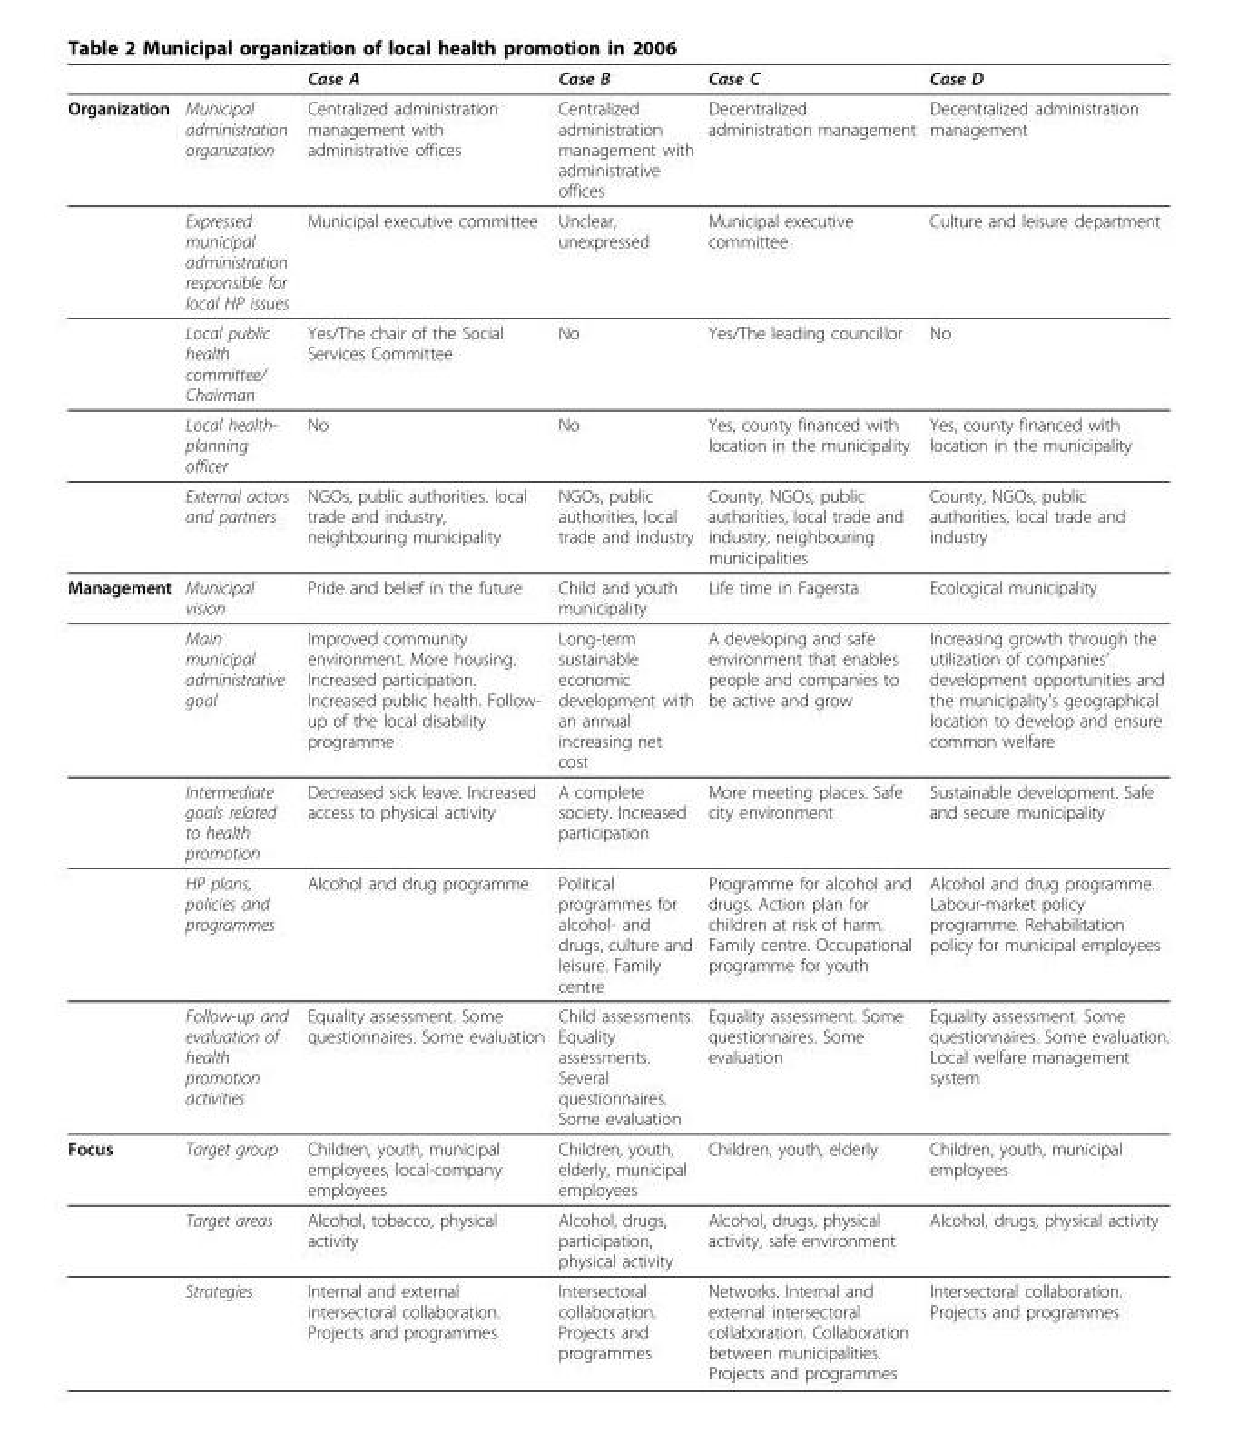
<table><thead><tr><td></td><td></td><td>Case A</td><td>Case B</td><td>Case C</td><td>Case D</td></tr></thead><tbody><tr><td rowspan="5">Organization</td><td>Municipal administration organization</td><td>Centralized administration management with administrative offices</td><td>Centralized administration management with administrative offices</td><td>Decentralized administration management</td><td>Decentralized administration management</td></tr><tr><td>Expressed municipal administration responsible for local HP issues</td><td>Municipal executive committee</td><td>Unclear, unexpressed</td><td>Municipal executive committee</td><td>Culture and leisure department</td></tr><tr><td>Local public health committee/ Chairman</td><td>Yes/The chair of the Social Services Committee</td><td>No</td><td>Yes/The leading councillor</td><td>No</td></tr><tr><td>Local health- planning officer</td><td>No</td><td>No</td><td>Yes, county financed with location in the municipality</td><td>Yes, county financed with location in the municipality</td></tr><tr><td>External actors and partners</td><td>NGOs, public authorities. local trade and industry, neighbouring municipality</td><td>NGOs, public authorities, local trade and industry</td><td>County, NGOs, public authorities, local trade and industry, neighbouring municipalities</td><td>County, NGOs, public authorities, local trade and industry</td></tr><tr><td rowspan="5">Management</td><td>Municipal vision</td><td>Pride and belief in the future</td><td>Child and youth municipality</td><td>Life time in Fagersta</td><td>Ecological municipality</td></tr><tr><td>Main municipal administrative goal</td><td>Improved community environment. More housing. Increased participation. Increased public health. Follow- up of the local disability programme</td><td>Long-term sustainable economic development with an annual increasing net cost</td><td>A developing and safe environment that enables people and companies to be active and grow</td><td>Increasing growth through the utilization of companies’ development opportunities and the municipality’s geographical location to develop and ensure common welfare</td></tr><tr><td>Intermediate goals related to health promotion</td><td>Decreased sick leave. Increased access to physical activity</td><td>A complete society. Increased participation</td><td>More meeting places. Safe city environment</td><td>Sustainable development. Safe and secure municipality</td></tr><tr><td>HP plans, policies and programmes</td><td>Alcohol and drug programme</td><td>Political programmes for alcohol- and drugs, culture and leisure. Family centre</td><td>Programme for alcohol and drugs. Action plan for children at risk of harm. Family centre. Occupational programme for youth</td><td>Alcohol and drug programme. Labour-market policy programme. Rehabilitation policy for municipal employees</td></tr><tr><td>Follow-up and evaluation of health promotion activities</td><td>Equality assessment. Some questionnaires. Some evaluation</td><td>Child assessments. Equality assessments. Several questionnaires. Some evaluation</td><td>Equality assessment. Some questionnaires. Some evaluation</td><td>Equality assessment. Some questionnaires. Some evaluation. Local welfare management system</td></tr><tr><td rowspan="3">Focus</td><td>Target group</td><td>Children, youth, municipal employees, local-company employees</td><td>Children, youth, elderly, municipal employees</td><td>Children, youth, elderly</td><td>Children, youth, municipal employees</td></tr><tr><td>Target areas</td><td>Alcohol, tobacco, physical activity</td><td>Alcohol, drugs, participation, physical activity</td><td>Alcohol, drugs, physical activity, safe environment</td><td>Alcohol, drugs, physical activity</td></tr><tr><td>Strategies</td><td>Internal and external intersectoral collaboration. Projects and programmes</td><td>Intersectoral collaboration. Projects and programmes</td><td>Networks. Internal and external intersectoral collaboration. Collaboration between municipalities. Projects and programmes</td><td>Intersectoral collaboration. Projects and programmes</td></tr></tbody></table>